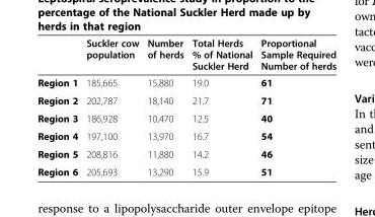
<table><thead><tr><td></td><td>Suckler cow population</td><td>Number of herds</td><td>Total Herds % of National Suckler Herd</td><td>Proportional Sample Required Number of herds</td></tr></thead><tbody><tr><td>Region 1</td><td>185,665</td><td>15,880</td><td>19.0</td><td>61</td></tr><tr><td>Region 2</td><td>202,787</td><td>18,140</td><td>21.7</td><td>71</td></tr><tr><td>Region 3</td><td>186,928</td><td>10,470</td><td>12.5</td><td>40</td></tr><tr><td>Region 4</td><td>197,100</td><td>13,970</td><td>16.7</td><td>54</td></tr><tr><td>Region 5</td><td>208,816</td><td>11,880</td><td>14.2</td><td>46</td></tr><tr><td>Region 6</td><td>205,693</td><td>13,290</td><td>15.9</td><td>51</td></tr></tbody></table>